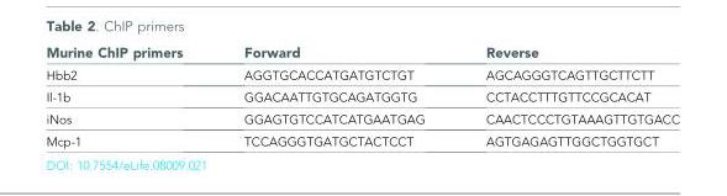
<table><thead><tr><td>Murine ChIP primers</td><td>Forward</td><td>Reverse</td></tr></thead><tbody><tr><td>Hbb2</td><td>AGGTGCACCATGATGTCTGT</td><td>AGCAGGGTCAGTTGCTTCTT</td></tr><tr><td>Il-1b</td><td>GGACAATTGTGCAGATGGTG</td><td>CCTACCTTTGTTCCGCACAT</td></tr><tr><td>iNos</td><td>GGAGTGTCCATCATGAATGAG</td><td>CAACTCCCTGTAAAGTTGTGACC</td></tr><tr><td>Mcp-1</td><td>TCCAGGGTGATGCTACTCCT</td><td>AGTGAGAGTTGGCTGGTGCT</td></tr></tbody></table>